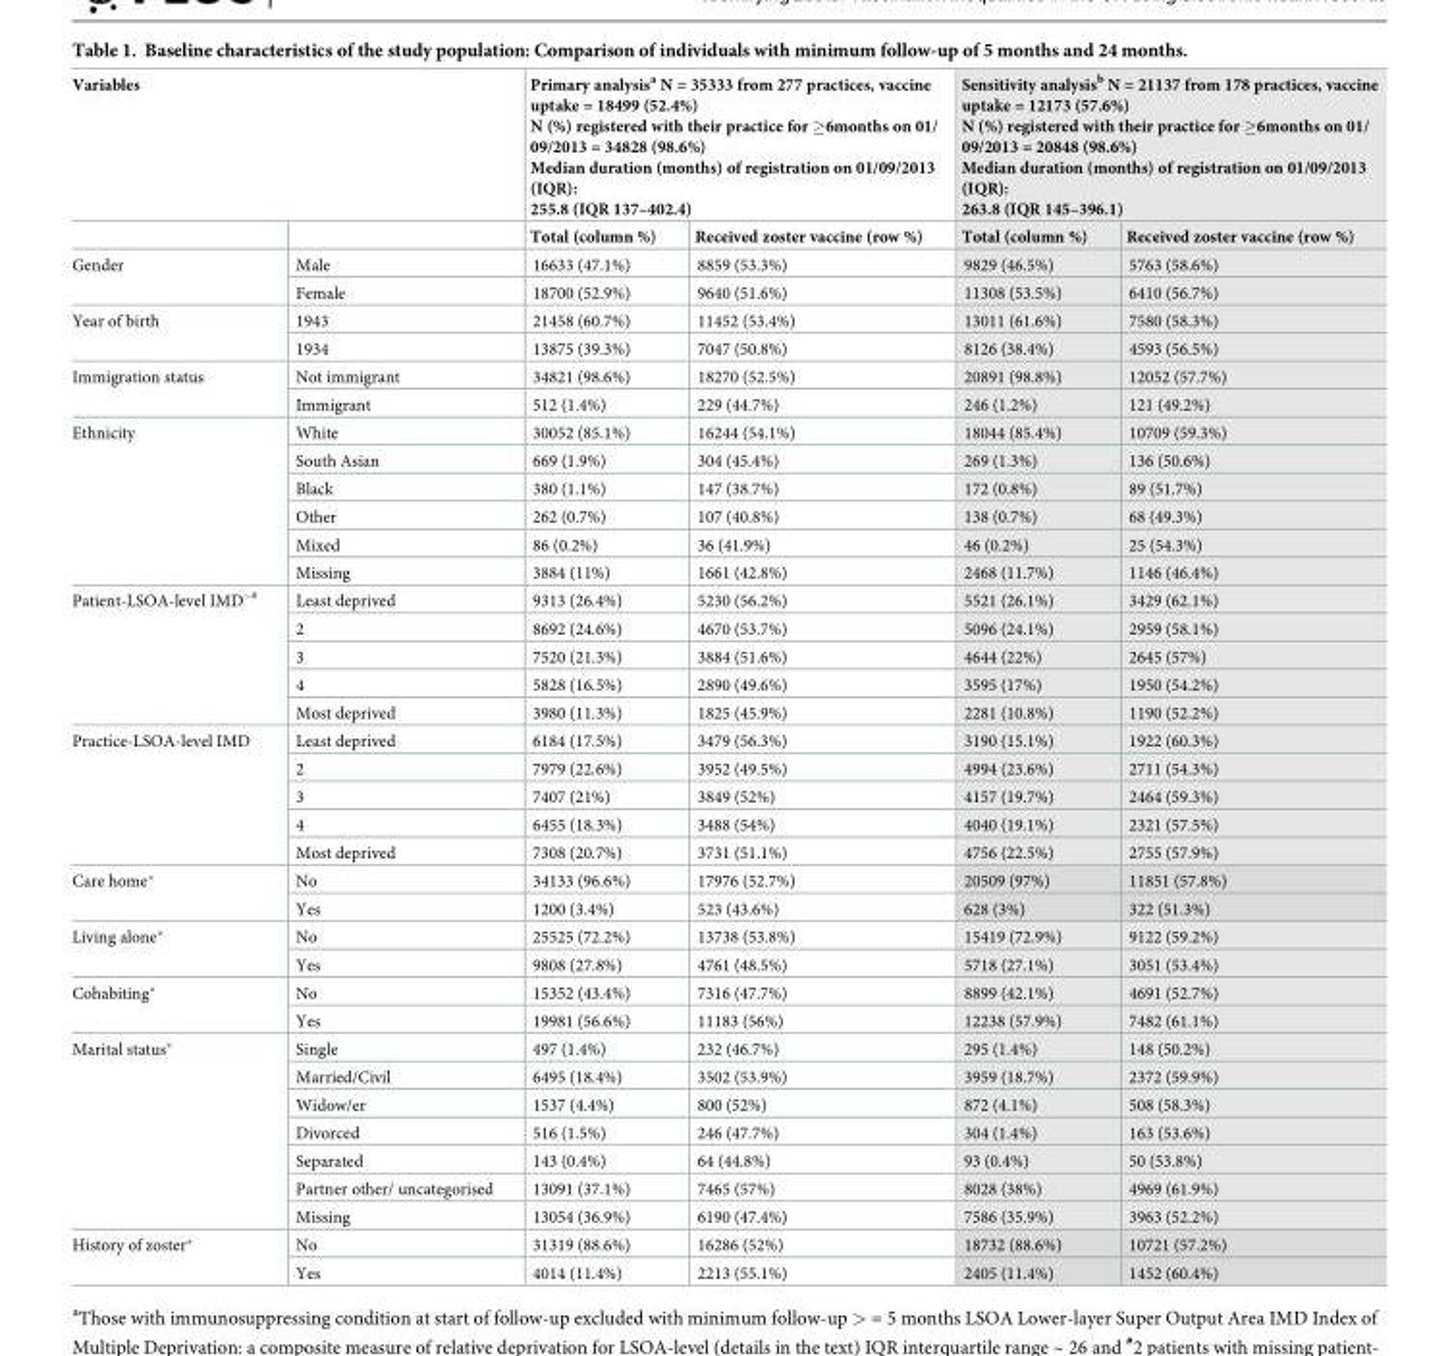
<table><thead><tr><td colspan="2">Variables</td><td colspan="2">Primary analysis<sup>a</sup> N = 35333 from 277 practices, vaccine uptake = 18499 (52.4%) N (%) registered with their practice for ≥6months on 01/ 09/2013 = 34828 (98.6%) Median duration (months) of registration on 01/09/2013 (IQR): 255.8 (IQR 137–402.4)</td><td colspan="2">Sensitivity analysis<sup>b</sup> N = 21137 from 178 practices, vaccine uptake = 12173 (57.6%) N (%) registered with their practice for ≥6months on 01/ 09/2013 = 20848 (98.6%) Median duration (months) of registration on 01/09/2013 (IQR): 263.8 (IQR 145–396.1)</td></tr><tr><td></td><td></td><td>Total (column %)</td><td>Received zoster vaccine (row %)</td><td>Total (column %)</td><td>Received zoster vaccine (row %)</td></tr></thead><tbody><tr><td rowspan="2">Gender</td><td>Male</td><td>16633 (47.1%)</td><td>8859 (53.3%)</td><td>9829 (46.5%)</td><td>5763 (58.6%)</td></tr><tr><td>Female</td><td>18700 (52.9%)</td><td>9640 (51.6%)</td><td>11308 (53.5%)</td><td>6410 (56.7%)</td></tr><tr><td rowspan="2">Year of birth</td><td>1943</td><td>21458 (60.7%)</td><td>11452 (53.4%)</td><td>13011 (61.6%)</td><td>7580 (58.3%)</td></tr><tr><td>1934</td><td>13875 (39.3%)</td><td>7047 (50.8%)</td><td>8126 (38.4%)</td><td>4593 (56.5%)</td></tr><tr><td rowspan="2">Immigration status</td><td>Not immigrant</td><td>34821 (98.6%)</td><td>18270 (52.5%)</td><td>20891 (98.8%)</td><td>12052 (57.7%)</td></tr><tr><td>Immigrant</td><td>512 (1.4%)</td><td>229 (44.7%)</td><td>246 (1.2%)</td><td>121 (49.2%)</td></tr><tr><td rowspan="6">Ethnicity</td><td>White</td><td>30052 (85.1%)</td><td>16244 (54.1%)</td><td>18044 (85.4%)</td><td>10709 (59.3%)</td></tr><tr><td>South Asian</td><td>669 (1.9%)</td><td>304 (45.4%)</td><td>269 (1.3%)</td><td>136 (50.6%)</td></tr><tr><td>Black</td><td>380 (1.1%)</td><td>147 (38.7%)</td><td>172 (0.8%)</td><td>89 (51.7%)</td></tr><tr><td>Other</td><td>262 (0.7%)</td><td>107 (40.8%)</td><td>138 (0.7%)</td><td>68 (49.3%)</td></tr><tr><td>Mixed</td><td>86 (0.2%)</td><td>36 (41.9%)</td><td>46 (0.2%)</td><td>25 (54.3%)</td></tr><tr><td>Missing</td><td>3884 (11%)</td><td>1661 (42.8%)</td><td>2468 (11.7%)</td><td>1146 (46.4%)</td></tr><tr><td rowspan="5">Patient-LSOA-level IMD<sup>~#</sup></td><td>Least deprived</td><td>9313 (26.4%)</td><td>5230 (56.2%)</td><td>5521 (26.1%)</td><td>3429 (62.1%)</td></tr><tr><td>2</td><td>8692 (24.6%)</td><td>4670 (53.7%)</td><td>5096 (24.1%)</td><td>2959 (58.1%)</td></tr><tr><td>3</td><td>7520 (21.3%)</td><td>3884 (51.6%)</td><td>4644 (22%)</td><td>2645 (57%)</td></tr><tr><td>4</td><td>5828 (16.5%)</td><td>2890 (49.6%)</td><td>3595 (17%)</td><td>1950 (54.2%)</td></tr><tr><td>Most deprived</td><td>3980 (11.3%)</td><td>1825 (45.9%)</td><td>2281 (10.8%)</td><td>1190 (52.2%)</td></tr><tr><td rowspan="5">Practice-LSOA-level IMD</td><td>Least deprived</td><td>6184 (17.5%)</td><td>3479 (56.3%)</td><td>3190 (15.1%)</td><td>1922 (60.3%)</td></tr><tr><td>2</td><td>7979 (22.6%)</td><td>3952 (49.5%)</td><td>4994 (23.6%)</td><td>2711 (54.3%)</td></tr><tr><td>3</td><td>7407 (21%)</td><td>3849 (52%)</td><td>4157 (19.7%)</td><td>2464 (59.3%)</td></tr><tr><td>4</td><td>6455 (18.3%)</td><td>3488 (54%)</td><td>4040 (19.1%)</td><td>2321 (57.5%)</td></tr><tr><td>Most deprived</td><td>7308 (20.7%)</td><td>3731 (51.1%)</td><td>4756 (22.5%)</td><td>2755 (57.9%)</td></tr><tr><td rowspan="2">Care home*</td><td>No</td><td>34133 (96.6%)</td><td>17976 (52.7%)</td><td>20509 (97%)</td><td>11851 (57.8%)</td></tr><tr><td>Yes</td><td>1200 (3.4%)</td><td>523 (43.6%)</td><td>628 (3%)</td><td>322 (51.3%)</td></tr><tr><td rowspan="2">Living alone*</td><td>No</td><td>25525 (72.2%)</td><td>13738 (53.8%)</td><td>15419 (72.9%)</td><td>9122 (59.2%)</td></tr><tr><td>Yes</td><td>9808 (27.8%)</td><td>4761 (48.5%)</td><td>5718 (27.1%)</td><td>3051 (53.4%)</td></tr><tr><td rowspan="2">Cohabiting*</td><td>No</td><td>15352 (43.4%)</td><td>7316 (47.7%)</td><td>8899 (42.1%)</td><td>4691 (52.7%)</td></tr><tr><td>Yes</td><td>19981 (56.6%)</td><td>11183 (56%)</td><td>12238 (57.9%)</td><td>7482 (61.1%)</td></tr><tr><td rowspan="7">Marital status*</td><td>Single</td><td>497 (1.4%)</td><td>232 (46.7%)</td><td>295 (1.4%)</td><td>148 (50.2%)</td></tr><tr><td>Married/Civil</td><td>6495 (18.4%)</td><td>3502 (53.9%)</td><td>3959 (18.7%)</td><td>2372 (59.9%)</td></tr><tr><td>Widow/er</td><td>1537 (4.4%)</td><td>800 (52%)</td><td>872 (4.1%)</td><td>508 (58.3%)</td></tr><tr><td>Divorced</td><td>516 (1.5%)</td><td>246 (47.7%)</td><td>304 (1.4%)</td><td>163 (53.6%)</td></tr><tr><td>Separated</td><td>143 (0.4%)</td><td>64 (44.8%)</td><td>93 (0.4%)</td><td>50 (53.8%)</td></tr><tr><td>Partner other/ uncategorised</td><td>13091 (37.1%)</td><td>7465 (57%)</td><td>8028 (38%)</td><td>4969 (61.9%)</td></tr><tr><td>Missing</td><td>13054 (36.9%)</td><td>6190 (47.4%)</td><td>7586 (35.9%)</td><td>3963 (52.2%)</td></tr><tr><td rowspan="2">History of zoster*</td><td>No</td><td>31319 (88.6%)</td><td>16286 (52%)</td><td>18732 (88.6%)</td><td>10721 (57.2%)</td></tr><tr><td>Yes</td><td>4014 (11.4%)</td><td>2213 (55.1%)</td><td>2405 (11.4%)</td><td>1452 (60.4%)</td></tr></tbody></table>